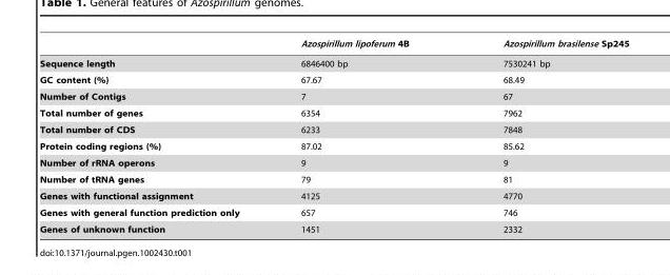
<table><thead><tr><td></td><td>Azospirillum lipoferum 4B</td><td>Azospirillum brasilense Sp245</td></tr></thead><tbody><tr><td>Sequence length</td><td>6846400 bp</td><td>7530241 bp</td></tr><tr><td>GC content (%)</td><td>67.67</td><td>68.49</td></tr><tr><td>Number of Contigs</td><td>7</td><td>67</td></tr><tr><td>Total number of genes</td><td>6354</td><td>7962</td></tr><tr><td>Total number of CDS</td><td>6233</td><td>7848</td></tr><tr><td>Protein coding regions (%)</td><td>87.02</td><td>85.62</td></tr><tr><td>Number of rRNA operons</td><td>9</td><td>9</td></tr><tr><td>Number of tRNA genes</td><td>79</td><td>81</td></tr><tr><td>Genes with functional assignment</td><td>4125</td><td>4770</td></tr><tr><td>Genes with general function prediction only</td><td>657</td><td>746</td></tr><tr><td>Genes of unknown function</td><td>1451</td><td>2332</td></tr></tbody></table>